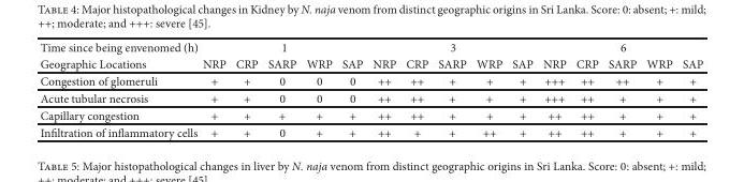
<table><thead><tr><td rowspan="2">Time since being envenomed (h) Geographic Locations</td><td colspan="5">1</td><td colspan="5">3</td><td colspan="5">6</td></tr><tr><td>NRP</td><td>CRP</td><td>SARP</td><td>WRP</td><td>SAP</td><td>NRP</td><td>CRP</td><td>SARP</td><td>WRP</td><td>SAP</td><td>NRP</td><td>CRP</td><td>SARP</td><td>WRP</td><td>SAP</td></tr></thead><tbody><tr><td>Congestion of glomeruli</td><td>+</td><td>+</td><td>0</td><td>0</td><td>0</td><td>++</td><td>++</td><td>+</td><td>+</td><td>+</td><td>+++</td><td>++</td><td>++</td><td>+</td><td>+</td></tr><tr><td>Acute tubular necrosis</td><td>+</td><td>+</td><td>0</td><td>0</td><td>0</td><td>++</td><td>++</td><td>+</td><td>+</td><td>+</td><td>+++</td><td>++</td><td>+</td><td>+</td><td>+</td></tr><tr><td>Capillary congestion</td><td>+</td><td>+</td><td>+</td><td>+</td><td>+</td><td>++</td><td>++</td><td>+</td><td>+</td><td>+</td><td>++</td><td>++</td><td>+</td><td>+</td><td>+</td></tr><tr><td>Infiltration of inflammatory cells</td><td>+</td><td>+</td><td>0</td><td>+</td><td>+</td><td>++</td><td>+</td><td>+</td><td>++</td><td>+</td><td>++</td><td>++</td><td>+</td><td>+</td><td>+</td></tr></tbody></table>